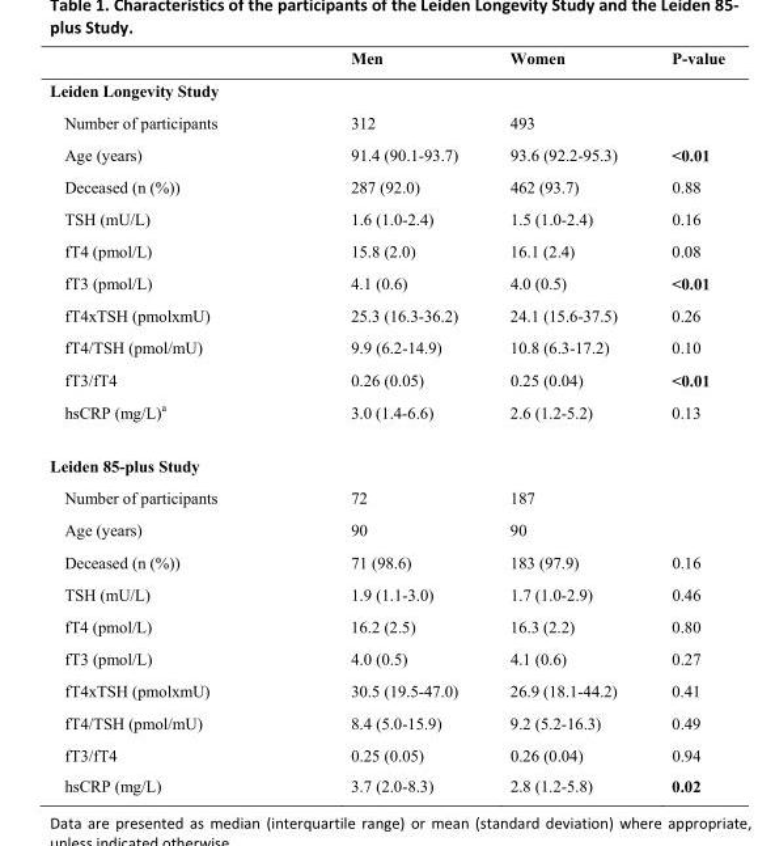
<table><thead><tr><td></td><td>Men</td><td>Women</td><td>P-value</td></tr></thead><tbody><tr><td colspan="4">Leiden Longevity Study</td></tr><tr><td>Number of participants</td><td>312</td><td>493</td><td></td></tr><tr><td>Age (years)</td><td>91.4 (90.1-93.7)</td><td>93.6 (92.2-95.3)</td><td>&lt;0.01</td></tr><tr><td>Deceased (n (%))</td><td>287 (92.0)</td><td>462 (93.7)</td><td>0.88</td></tr><tr><td>TSH (mU/L)</td><td>1.6 (1.0-2.4)</td><td>1.5 (1.0-2.4)</td><td>0.16</td></tr><tr><td>fT4 (pmol/L)</td><td>15.8 (2.0)</td><td>16.1 (2.4)</td><td>0.08</td></tr><tr><td>fT3 (pmol/L)</td><td>4.1 (0.6)</td><td>4.0 (0.5)</td><td>&lt;0.01</td></tr><tr><td>fT4xTSH (pmolxmU)</td><td>25.3 (16.3-36.2)</td><td>24.1 (15.6-37.5)</td><td>0.26</td></tr><tr><td>fT4/TSH (pmol/mU)</td><td>9.9 (6.2-14.9)</td><td>10.8 (6.3-17.2)</td><td>0.10</td></tr><tr><td>fT3/fT4</td><td>0.26 (0.05)</td><td>0.25 (0.04)</td><td>&lt;0.01</td></tr><tr><td>hsCRP (mg/L)<sup>a</sup></td><td>3.0 (1.4-6.6)</td><td>2.6 (1.2-5.2)</td><td>0.13</td></tr><tr><td colspan="4">Leiden 85-plus Study</td></tr><tr><td>Number of participants</td><td>72</td><td>187</td><td></td></tr><tr><td>Age (years)</td><td>90</td><td>90</td><td></td></tr><tr><td>Deceased (n (%))</td><td>71 (98.6)</td><td>183 (97.9)</td><td>0.16</td></tr><tr><td>TSH (mU/L)</td><td>1.9 (1.1-3.0)</td><td>1.7 (1.0-2.9)</td><td>0.46</td></tr><tr><td>fT4 (pmol/L)</td><td>16.2 (2.5)</td><td>16.3 (2.2)</td><td>0.80</td></tr><tr><td>fT3 (pmol/L)</td><td>4.0 (0.5)</td><td>4.1 (0.6)</td><td>0.27</td></tr><tr><td>fT4xTSH (pmolxmU)</td><td>30.5 (19.5-47.0)</td><td>26.9 (18.1-44.2)</td><td>0.41</td></tr><tr><td>fT4/TSH (pmol/mU)</td><td>8.4 (5.0-15.9)</td><td>9.2 (5.2-16.3)</td><td>0.49</td></tr><tr><td>fT3/fT4</td><td>0.25 (0.05)</td><td>0.26 (0.04)</td><td>0.94</td></tr><tr><td>hsCRP (mg/L)</td><td>3.7 (2.0-8.3)</td><td>2.8 (1.2-5.8)</td><td>0.02</td></tr></tbody></table>